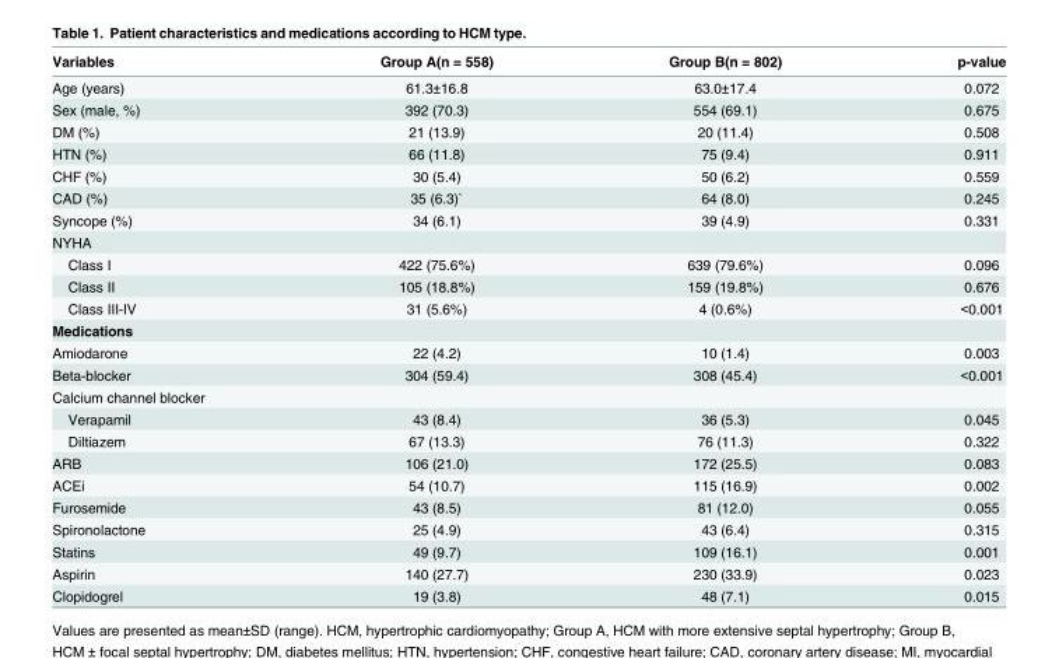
<table><thead><tr><td>Variables</td><td>Group A(n = 558)</td><td>Group B(n = 802)</td><td>p-value</td></tr></thead><tbody><tr><td>Age (years)</td><td>61.3±16.8</td><td>63.0±17.4</td><td>0.072</td></tr><tr><td>Sex (male, %)</td><td>392 (70.3)</td><td>554 (69.1)</td><td>0.675</td></tr><tr><td>DM (%)</td><td>21 (13.9)</td><td>20 (11.4)</td><td>0.508</td></tr><tr><td>HTN (%)</td><td>66 (11.8)</td><td>75 (9.4)</td><td>0.911</td></tr><tr><td>CHF (%)</td><td>30 (5.4)</td><td>50 (6.2)</td><td>0.559</td></tr><tr><td>CAD (%)</td><td>35 (6.3)`</td><td>64 (8.0)</td><td>0.245</td></tr><tr><td>Syncope (%)</td><td>34 (6.1)</td><td>39 (4.9)</td><td>0.331</td></tr><tr><td colspan="4">NYHA</td></tr><tr><td>Class I</td><td>422 (75.6%)</td><td>639 (79.6%)</td><td>0.096</td></tr><tr><td>Class II</td><td>105 (18.8%)</td><td>159 (19.8%)</td><td>0.676</td></tr><tr><td>Class III-IV</td><td>31 (5.6%)</td><td>4 (0.6%)</td><td>&lt;0.001</td></tr><tr><td colspan="4">Medications</td></tr><tr><td>Amiodarone</td><td>22 (4.2)</td><td>10 (1.4)</td><td>0.003</td></tr><tr><td>Beta-blocker</td><td>304 (59.4)</td><td>308 (45.4)</td><td>&lt;0.001</td></tr><tr><td colspan="4">Calcium channel blocker</td></tr><tr><td>Verapamil</td><td>43 (8.4)</td><td>36 (5.3)</td><td>0.045</td></tr><tr><td>Diltiazem</td><td>67 (13.3)</td><td>76 (11.3)</td><td>0.322</td></tr><tr><td>ARB</td><td>106 (21.0)</td><td>172 (25.5)</td><td>0.083</td></tr><tr><td>ACEi</td><td>54 (10.7)</td><td>115 (16.9)</td><td>0.002</td></tr><tr><td>Furosemide</td><td>43 (8.5)</td><td>81 (12.0)</td><td>0.055</td></tr><tr><td>Spironolactone</td><td>25 (4.9)</td><td>43 (6.4)</td><td>0.315</td></tr><tr><td>Statins</td><td>49 (9.7)</td><td>109 (16.1)</td><td>0.001</td></tr><tr><td>Aspirin</td><td>140 (27.7)</td><td>230 (33.9)</td><td>0.023</td></tr><tr><td>Clopidogrel</td><td>19 (3.8)</td><td>48 (7.1)</td><td>0.015</td></tr></tbody></table>